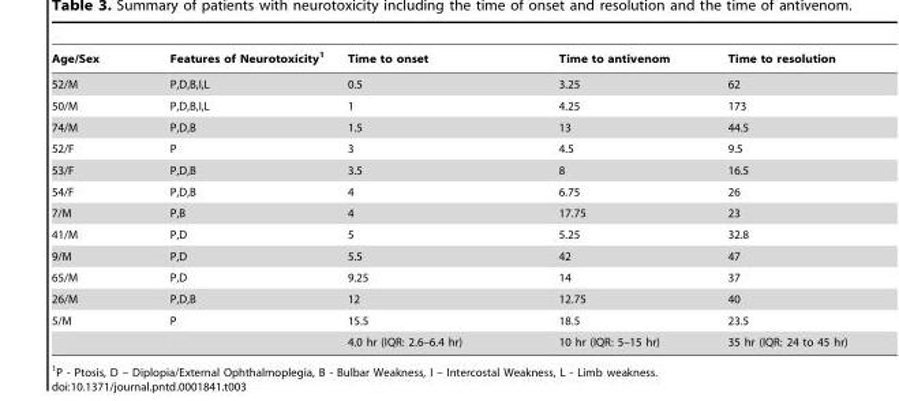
<table><thead><tr><td>Age/Sex</td><td>Features of Neurotoxicity<sup>1</sup></td><td>Time to onset</td><td>Time to antivenom</td><td>Time to resolution</td></tr></thead><tbody><tr><td>52/M</td><td>P,D,B,I,L</td><td>0.5</td><td>3.25</td><td>62</td></tr><tr><td>50/M</td><td>P,D,B,I,L</td><td>1</td><td>4.25</td><td>173</td></tr><tr><td>74/M</td><td>P,D,B</td><td>1.5</td><td>13</td><td>44.5</td></tr><tr><td>52/F</td><td>P</td><td>3</td><td>4.5</td><td>9.5</td></tr><tr><td>53/F</td><td>P,D,B</td><td>3.5</td><td>8</td><td>16.5</td></tr><tr><td>54/F</td><td>P,D,B</td><td>4</td><td>6.75</td><td>26</td></tr><tr><td>7/M</td><td>P,B</td><td>4</td><td>17.75</td><td>23</td></tr><tr><td>41/M</td><td>P,D</td><td>5</td><td>5.25</td><td>32.8</td></tr><tr><td>9/M</td><td>P,D</td><td>5.5</td><td>42</td><td>47</td></tr><tr><td>65/M</td><td>P,D</td><td>9.25</td><td>14</td><td>37</td></tr><tr><td>26/M</td><td>P,D,B</td><td>12</td><td>12.75</td><td>40</td></tr><tr><td rowspan="2">5/M</td><td>P</td><td>15.5</td><td>18.5</td><td>23.5</td></tr><tr><td></td><td>4.0 hr (IQR: 2.6–6.4 hr)</td><td>10 hr (IQR: 5–15 hr)</td><td>35 hr (IQR: 24 to 45 hr)</td></tr></tbody></table>